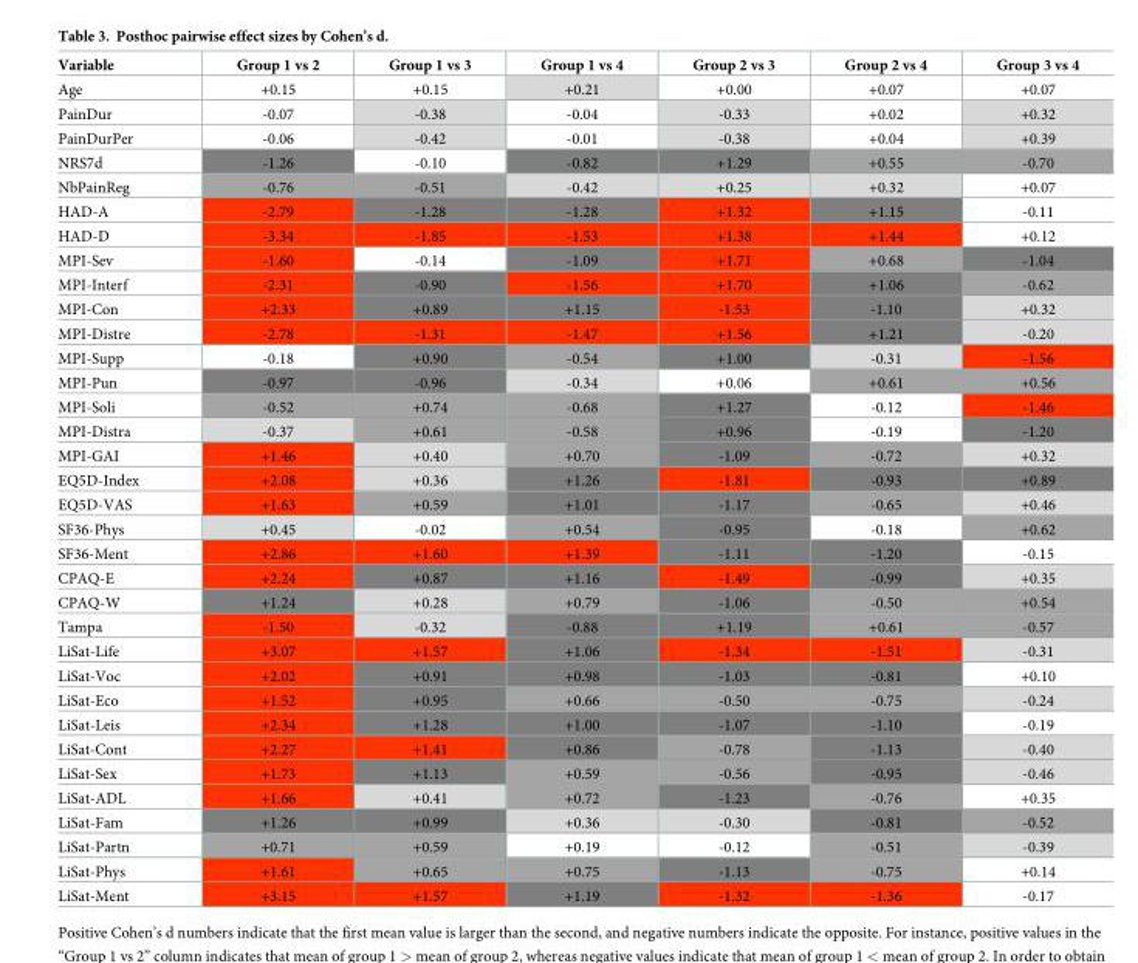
<table><thead><tr><td>Variable</td><td>Group 1 vs 2</td><td>Group 1 vs 3</td><td>Group 1 vs 4</td><td>Group 2 vs 3</td><td>Group 2 vs 4</td><td>Group 3 vs 4</td></tr></thead><tbody><tr><td>Age</td><td>+0.15</td><td>+0.15</td><td>+0.21</td><td>+0.00</td><td>+0.07</td><td>+0.07</td></tr><tr><td>PainDur</td><td>-0.07</td><td>-0.38</td><td>-0.04</td><td>-0.33</td><td>+0.02</td><td>+0.32</td></tr><tr><td>PainDurPer</td><td>-0.06</td><td>-0.42</td><td>-0.01</td><td>-0.38</td><td>+0.04</td><td>+0.39</td></tr><tr><td>NRS7d</td><td>-1.26</td><td>-0.10</td><td>-0.82</td><td>+1.29</td><td>+0.55</td><td>-0.70</td></tr><tr><td>NbPainReg</td><td>-0.76</td><td>-0.51</td><td>-0.42</td><td>+0.25</td><td>+0.32</td><td>+0.07</td></tr><tr><td>HAD-A</td><td>-2.79</td><td>-1.28</td><td>-1.28</td><td>+1.32</td><td>+1.15</td><td>-0.11</td></tr><tr><td>HAD-D</td><td>-3.34</td><td>-1.85</td><td>-1.53</td><td>+1.38</td><td>+1.44</td><td>+0.12</td></tr><tr><td>MPI-Sev</td><td>-1.60</td><td>-0.14</td><td>-1.09</td><td>+1.71</td><td>+0.68</td><td>-1.04</td></tr><tr><td>MPI-Interf</td><td>-2.31</td><td>-0.90</td><td>-1.56</td><td>+1.70</td><td>+1.06</td><td>-0.62</td></tr><tr><td>MPI-Con</td><td>+2.33</td><td>+0.89</td><td>+1.15</td><td>-1.53</td><td>-1.10</td><td>+0.32</td></tr><tr><td>MPI-Distre</td><td>-2.78</td><td>-1.31</td><td>-1.47</td><td>+1.56</td><td>+1.21</td><td>-0.20</td></tr><tr><td>MPI-Supp</td><td>-0.18</td><td>+0.90</td><td>-0.54</td><td>+1.00</td><td>-0.31</td><td>-1.56</td></tr><tr><td>MPI-Pun</td><td>-0.97</td><td>-0.96</td><td>-0.34</td><td>+0.06</td><td>+0.61</td><td>+0.56</td></tr><tr><td>MPI-Soli</td><td>-0.52</td><td>+0.74</td><td>-0.68</td><td>+1.27</td><td>-0.12</td><td>-1.46</td></tr><tr><td>MPI-Distra</td><td>-0.37</td><td>+0.61</td><td>-0.58</td><td>+0.96</td><td>-0.19</td><td>-1.20</td></tr><tr><td>MPI-GAI</td><td>+1.46</td><td>+0.40</td><td>+0.70</td><td>-1.09</td><td>-0.72</td><td>+0.32</td></tr><tr><td>EQ5D-Index</td><td>+2.08</td><td>+0.36</td><td>+1.26</td><td>-1.81</td><td>-0.93</td><td>+0.89</td></tr><tr><td>EQ5D-VAS</td><td>+1.63</td><td>+0.59</td><td>+1.01</td><td>-1.17</td><td>-0.65</td><td>+0.46</td></tr><tr><td>SF36-Phys</td><td>+0.45</td><td>-0.02</td><td>+0.54</td><td>-0.95</td><td>-0.18</td><td>+0.62</td></tr><tr><td>SF36-Ment</td><td>+2.86</td><td>+1.60</td><td>+1.39</td><td>-1.11</td><td>-1.20</td><td>-0.15</td></tr><tr><td>CPAQ-E</td><td>+2.24</td><td>+0.87</td><td>+1.16</td><td>-1.49</td><td>-0.99</td><td>+0.35</td></tr><tr><td>CPAQ-W</td><td>+1.24</td><td>+0.28</td><td>+0.79</td><td>-1.06</td><td>-0.50</td><td>+0.54</td></tr><tr><td>Tampa</td><td>-1.50</td><td>-0.32</td><td>-0.88</td><td>+1.19</td><td>+0.61</td><td>-0.57</td></tr><tr><td>LiSat-Life</td><td>+3.07</td><td>+1.57</td><td>+1.06</td><td>-1.34</td><td>-1.51</td><td>-0.31</td></tr><tr><td>LiSat-Voc</td><td>+2.02</td><td>+0.91</td><td>+0.98</td><td>-1.03</td><td>-0.81</td><td>+0.10</td></tr><tr><td>LiSat-Eco</td><td>+1.52</td><td>+0.95</td><td>+0.66</td><td>-0.50</td><td>-0.75</td><td>-0.24</td></tr><tr><td>LiSat-Leis</td><td>+2.34</td><td>+1.28</td><td>+1.00</td><td>-1.07</td><td>-1.10</td><td>-0.19</td></tr><tr><td>LiSat-Cont</td><td>+2.27</td><td>+1.41</td><td>+0.86</td><td>-0.78</td><td>-1.13</td><td>-0.40</td></tr><tr><td>LiSat-Sex</td><td>+1.73</td><td>+1.13</td><td>+0.59</td><td>-0.56</td><td>-0.95</td><td>-0.46</td></tr><tr><td>LiSat-ADL</td><td>+1.66</td><td>+0.41</td><td>+0.72</td><td>-1.23</td><td>-0.76</td><td>+0.35</td></tr><tr><td>LiSat-Fam</td><td>+1.26</td><td>+0.99</td><td>+0.36</td><td>-0.30</td><td>-0.81</td><td>-0.52</td></tr><tr><td>LiSat-Partn</td><td>+0.71</td><td>+0.59</td><td>+0.19</td><td>-0.12</td><td>-0.51</td><td>-0.39</td></tr><tr><td>LiSat-Phys</td><td>+1.61</td><td>+0.65</td><td>+0.75</td><td>-1.13</td><td>-0.75</td><td>+0.14</td></tr><tr><td>LiSat-Ment</td><td>+3.15</td><td>+1.57</td><td>+1.19</td><td>-1.32</td><td>-1.36</td><td>-0.17</td></tr></tbody></table>